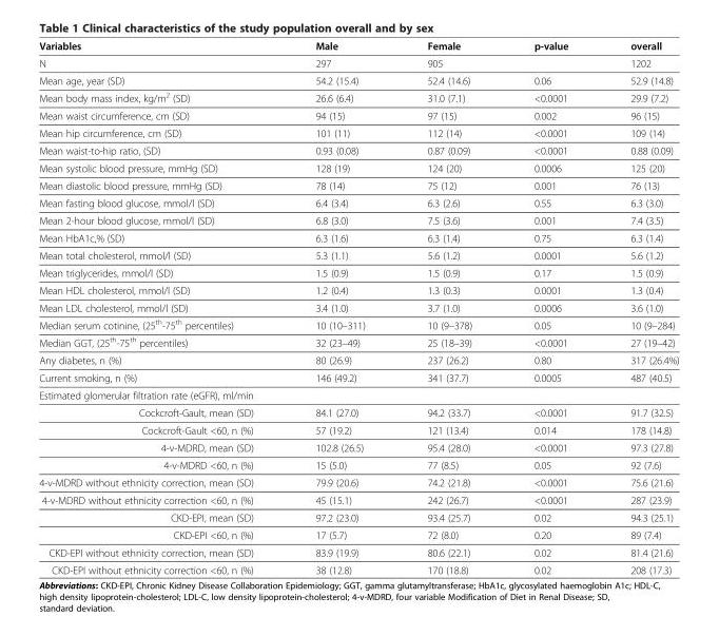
<table><thead><tr><td>Variables</td><td>Male</td><td>Female</td><td>p-value</td><td>overall</td></tr></thead><tbody><tr><td>N</td><td>297</td><td>905</td><td></td><td>1202</td></tr><tr><td>Mean age, year (SD)</td><td>54.2 (15.4)</td><td>52.4 (14.6)</td><td>0.06</td><td>52.9 (14.8)</td></tr><tr><td>Mean body mass index, kg/m<sup>2</sup> (SD)</td><td>26.6 (6.4)</td><td>31.0 (7.1)</td><td>&lt;0.0001</td><td>29.9 (7.2)</td></tr><tr><td>Mean waist circumference, cm (SD)</td><td>94 (15)</td><td>97 (15)</td><td>0.002</td><td>96 (15)</td></tr><tr><td>Mean hip circumference, cm (SD)</td><td>101 (11)</td><td>112 (14)</td><td>&lt;0.0001</td><td>109 (14)</td></tr><tr><td>Mean waist-to-hip ratio, (SD)</td><td>0.93 (0.08)</td><td>0.87 (0.09)</td><td>&lt;0.0001</td><td>0.88 (0.09)</td></tr><tr><td>Mean systolic blood pressure, mmHg (SD)</td><td>128 (19)</td><td>124 (20)</td><td>0.0006</td><td>125 (20)</td></tr><tr><td>Mean diastolic blood pressure, mmHg (SD)</td><td>78 (14)</td><td>75 (12)</td><td>0.001</td><td>76 (13)</td></tr><tr><td>Mean fasting blood glucose, mmol/l (SD)</td><td>6.4 (3.4)</td><td>6.3 (2.6)</td><td>0.55</td><td>6.3 (3.0)</td></tr><tr><td>Mean 2-hour blood glucose, mmol/l (SD)</td><td>6.8 (3.0)</td><td>7.5 (3.6)</td><td>0.001</td><td>7.4 (3.5)</td></tr><tr><td>Mean HbA1c,% (SD)</td><td>6.3 (1.6)</td><td>6.3 (1.4)</td><td>0.75</td><td>6.3 (1.4)</td></tr><tr><td>Mean total cholesterol, mmol/l (SD)</td><td>5.3 (1.1)</td><td>5.6 (1.2)</td><td>0.0001</td><td>5.6 (1.2)</td></tr><tr><td>Mean triglycerides, mmol/l (SD)</td><td>1.5 (0.9)</td><td>1.5 (0.9)</td><td>0.17</td><td>1.5 (0.9)</td></tr><tr><td>Mean HDL cholesterol, mmol/l (SD)</td><td>1.2 (0.4)</td><td>1.3 (0.3)</td><td>0.0001</td><td>1.3 (0.4)</td></tr><tr><td>Mean LDL cholesterol, mmol/l (SD)</td><td>3.4 (1.0)</td><td>3.7 (1.0)</td><td>0.0006</td><td>3.6 (1.0)</td></tr><tr><td>Median serum cotinine, (25<sup>th</sup>-75<sup>th</sup> percentiles)</td><td>10 (10–311)</td><td>10 (9–378)</td><td>0.05</td><td>10 (9–284)</td></tr><tr><td>Median GGT, (25<sup>th</sup>-75<sup>th</sup> percentiles)</td><td>32 (23–49)</td><td>25 (18–39)</td><td>&lt;0.0001</td><td>27 (19–42)</td></tr><tr><td>Any diabetes, n (%)</td><td>80 (26.9)</td><td>237 (26.2)</td><td>0.80</td><td>317 (26.4%)</td></tr><tr><td>Current smoking, n (%)</td><td>146 (49.2)</td><td>341 (37.7)</td><td>0.0005</td><td>487 (40.5)</td></tr><tr><td colspan="5">Estimated glomerular filtration rate (eGFR), ml/min</td></tr><tr><td>Cockcroft-Gault, mean (SD)</td><td>84.1 (27.0)</td><td>94.2 (33.7)</td><td>&lt;0.0001</td><td>91.7 (32.5)</td></tr><tr><td>Cockcroft-Gault &lt;60, n (%)</td><td>57 (19.2)</td><td>121 (13.4)</td><td>0.014</td><td>178 (14.8)</td></tr><tr><td>4-v-MDRD, mean (SD)</td><td>102.8 (26.5)</td><td>95.4 (28.0)</td><td>&lt;0.0001</td><td>97.3 (27.8)</td></tr><tr><td>4-v-MDRD &lt;60, n (%)</td><td>15 (5.0)</td><td>77 (8.5)</td><td>0.05</td><td>92 (7.6)</td></tr><tr><td>4-v-MDRD without ethnicity correction, mean (SD)</td><td>79.9 (20.6)</td><td>74.2 (21.8)</td><td>&lt;0.0001</td><td>75.6 (21.6)</td></tr><tr><td>4-v-MDRD without ethnicity correction &lt;60, n (%)</td><td>45 (15.1)</td><td>242 (26.7)</td><td>&lt;0.0001</td><td>287 (23.9)</td></tr><tr><td>CKD-EPI, mean (SD)</td><td>97.2 (23.0)</td><td>93.4 (25.7)</td><td>0.02</td><td>94.3 (25.1)</td></tr><tr><td>CKD-EPI &lt;60, n (%)</td><td>17 (5.7)</td><td>72 (8.0)</td><td>0.20</td><td>89 (7.4)</td></tr><tr><td>CKD-EPI without ethnicity correction, mean (SD)</td><td>83.9 (19.9)</td><td>80.6 (22.1)</td><td>0.02</td><td>81.4 (21.6)</td></tr><tr><td>CKD-EPI without ethnicity correction &lt;60, n (%)</td><td>38 (12.8)</td><td>170 (18.8)</td><td>0.02</td><td>208 (17.3)</td></tr></tbody></table>